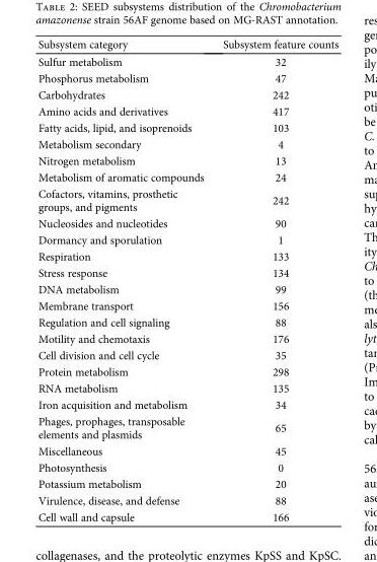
<table><thead><tr><td>Subsystem category</td><td>Subsystem feature counts</td></tr></thead><tbody><tr><td>Sulfur metabolism</td><td>32</td></tr><tr><td>Phosphorus metabolism</td><td>47</td></tr><tr><td>Carbohydrates</td><td>242</td></tr><tr><td>Amino acids and derivatives</td><td>417</td></tr><tr><td>Fatty acids, lipid, and isoprenoids</td><td>103</td></tr><tr><td>Metabolism secondary</td><td>4</td></tr><tr><td>Nitrogen metabolism</td><td>13</td></tr><tr><td>Metabolism of aromatic compounds</td><td>24</td></tr><tr><td>Cofactors, vitamins, prosthetic groups, and pigments</td><td>242</td></tr><tr><td>Nucleosides and nucleotides</td><td>90</td></tr><tr><td>Dormancy and sporulation</td><td>1</td></tr><tr><td>Respiration</td><td>133</td></tr><tr><td>Stress response</td><td>134</td></tr><tr><td>DNA metabolism</td><td>99</td></tr><tr><td>Membrane transport</td><td>156</td></tr><tr><td>Regulation and cell signaling</td><td>88</td></tr><tr><td>Motility and chemotaxis</td><td>176</td></tr><tr><td>Cell division and cell cycle</td><td>35</td></tr><tr><td>Protein metabolism</td><td>298</td></tr><tr><td>RNA metabolism</td><td>135</td></tr><tr><td>Iron acquisition and metabolism</td><td>34</td></tr><tr><td>Phages, prophages, transposable elements and plasmids</td><td>65</td></tr><tr><td>Miscellaneous</td><td>45</td></tr><tr><td>Photosynthesis</td><td>0</td></tr><tr><td>Potassium metabolism</td><td>20</td></tr><tr><td>Virulence, disease, and defense</td><td>88</td></tr><tr><td>Cell wall and capsule</td><td>166</td></tr></tbody></table>